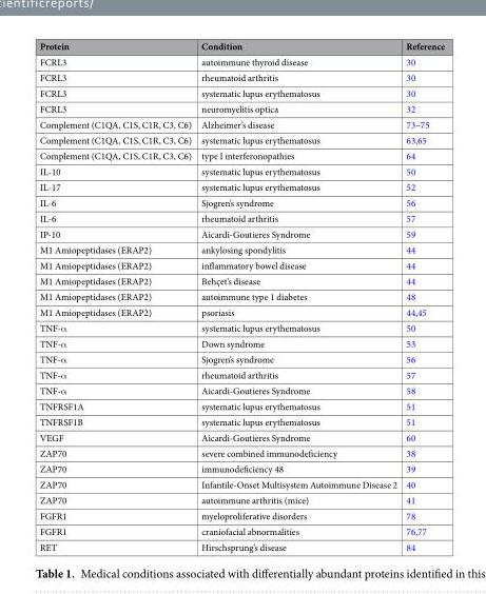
<table><thead><tr><td>Protein</td><td>Condition</td><td>Reference</td></tr></thead><tbody><tr><td>FCRL3</td><td>autoimmune thyroid disease</td><td>30</td></tr><tr><td>FCRL3</td><td>rheumatoid arthritis</td><td>30</td></tr><tr><td>FCRL3</td><td>systematic lupus erythematosus</td><td>30</td></tr><tr><td>FCRL3</td><td>neuromyelitis optica</td><td>32</td></tr><tr><td>Complement (C1QA, C1S, C1R, C3, C6)</td><td>Alzheimer’s disease</td><td>73–75</td></tr><tr><td>Complement (C1QA, C1S, C1R, C3, C6)</td><td>systematic lupus erythematosus</td><td>63,65</td></tr><tr><td>Complement (C1QA, C1S, C1R, C3, C6)</td><td>type I interferonopathies</td><td>64</td></tr><tr><td>IL-10</td><td>systematic lupus erythematosus</td><td>50</td></tr><tr><td>IL-17</td><td>systematic lupus erythematosus</td><td>52</td></tr><tr><td>IL-6</td><td>Sjogren’s syndrome</td><td>56</td></tr><tr><td>IL-6</td><td>rheumatoid arthritis</td><td>57</td></tr><tr><td>IP-10</td><td>Aicardi-Goutieres Syndrome</td><td>59</td></tr><tr><td>M1 Amiopeptidases (ERAP2)</td><td>ankylosing spondylitis</td><td>44</td></tr><tr><td>M1 Amiopeptidases (ERAP2)</td><td>inflammatory bowel disease</td><td>44</td></tr><tr><td>M1 Amiopeptidases (ERAP2)</td><td>Behçet’s disease</td><td>44</td></tr><tr><td>M1 Amiopeptidases (ERAP2)</td><td>autoimmune type 1 diabetes</td><td>48</td></tr><tr><td>M1 Amiopeptidases (ERAP2)</td><td>psoriasis</td><td>44,45</td></tr><tr><td>TNF-α</td><td>systematic lupus erythematosus</td><td>50</td></tr><tr><td>TNF-α</td><td>Down syndrome</td><td>53</td></tr><tr><td>TNF-α</td><td>Sjogren’s syndrome</td><td>56</td></tr><tr><td>TNF-α</td><td>rheumatoid arthritis</td><td>57</td></tr><tr><td>TNF-α</td><td>Aicardi-Goutieres Syndrome</td><td>58</td></tr><tr><td>TNFRSF1A</td><td>systematic lupus erythematosus</td><td>51</td></tr><tr><td>TNFRSF1B</td><td>systematic lupus erythematosus</td><td>51</td></tr><tr><td>VEGF</td><td>Aicardi-Goutieres Syndrome</td><td>60</td></tr><tr><td>ZAP70</td><td>severe combined immunodeficiency</td><td>38</td></tr><tr><td>ZAP70</td><td>immunodeficiency 48</td><td>39</td></tr><tr><td>ZAP70</td><td>Infantile-Onset Multisystem Autoimmune Disease 2</td><td>40</td></tr><tr><td>ZAP70</td><td>autoimmune arthritis (mice)</td><td>41</td></tr><tr><td>FGFR1</td><td>myeloproliferative disorders</td><td>78</td></tr><tr><td>FGFR1</td><td>craniofacial abnormalities</td><td>76,77</td></tr><tr><td>RET</td><td>Hirschsprung’s disease</td><td>84</td></tr></tbody></table>